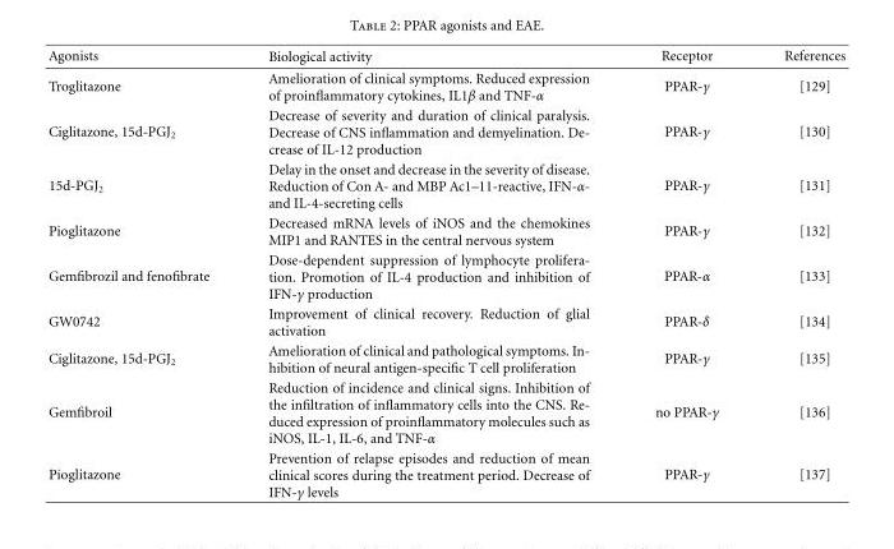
<table><thead><tr><td>Agonists</td><td>Biological activity</td><td>Receptor</td><td>References</td></tr></thead><tbody><tr><td>Troglitazone</td><td>Amelioration of clinical symptoms. Reduced expression of proinflammatory cytokines, IL1β and TNF-α</td><td>PPAR-γ</td><td>[129]</td></tr><tr><td>Ciglitazone, 15d-PGJ<sub>2</sub></td><td>Decrease of severity and duration of clinical paralysis. Decrease of CNS inflammation and demyelination. De- crease of IL-12 production</td><td>PPAR-γ</td><td>[130]</td></tr><tr><td>15d-PGJ<sub>2</sub></td><td>Delay in the onset and decrease in the severity of disease. Reduction of Con A- and MBP Ac1–11-reactive, IFN-α- and IL-4-secreting cells</td><td>PPAR-γ</td><td>[131]</td></tr><tr><td>Pioglitazone</td><td>Decreased mRNA levels of iNOS and the chemokines MIP1 and RANTES in the central nervous system</td><td>PPAR-γ</td><td>[132]</td></tr><tr><td>Gemfibrozil and fenofibrate</td><td>Dose-dependent suppression of lymphocyte prolifera- tion. Promotion of IL-4 production and inhibition of IFN-γ production</td><td>PPAR-α</td><td>[133]</td></tr><tr><td>GW0742</td><td>Improvement of clinical recovery. Reduction of glial activation</td><td>PPAR-δ</td><td>[134]</td></tr><tr><td>Ciglitazone, 15d-PGJ<sub>2</sub></td><td>Amelioration of clinical and pathological symptoms. In- hibition of neural antigen-specific T cell proliferation</td><td>PPAR-γ</td><td>[135]</td></tr><tr><td>Gemfibroil</td><td>Reduction of incidence and clinical signs. Inhibition of the infiltration of inflammatory cells into the CNS. Re- duced expression of proinflammatory molecules such as iNOS, IL-1, IL-6, and TNF-α</td><td>no PPAR-γ</td><td>[136]</td></tr><tr><td>Pioglitazone</td><td>Prevention of relapse episodes and reduction of mean clinical scores during the treatment period. Decrease of IFN-γ levels</td><td>PPAR-γ</td><td>[137]</td></tr></tbody></table>